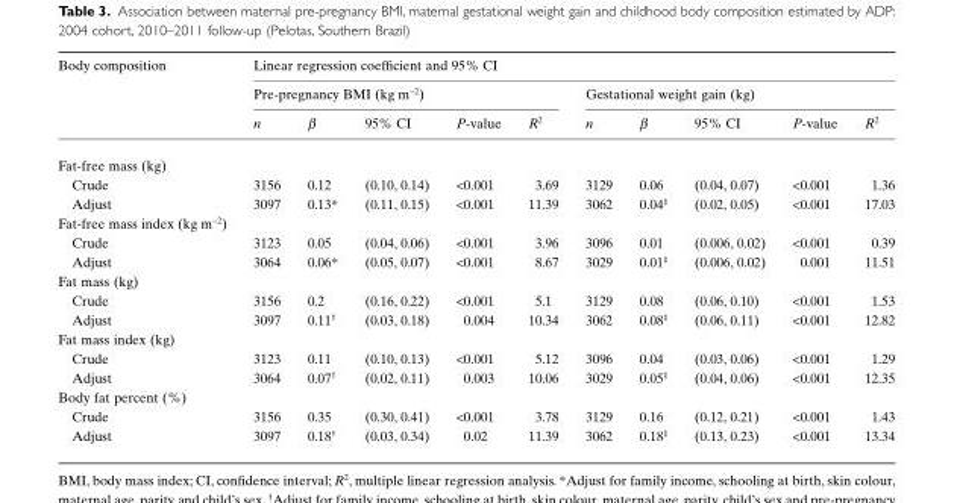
<table><thead><tr><td rowspan="3">Body composition</td><td colspan="10">Linear regression coefficient and 95% CI</td></tr><tr><td colspan="5">Pre-pregnancy BMI (kg m<sup>−2</sup>)</td><td colspan="5">Gestational weight gain (kg)</td></tr><tr><td>n</td><td>β</td><td>95% CI</td><td>P-value</td><td>R<sup>2</sup></td><td>n</td><td>β</td><td>95% CI</td><td>P-value</td><td>R<sup>2</sup></td></tr></thead><tbody><tr><td colspan="11">Fat-free mass (kg)</td></tr><tr><td>Crude</td><td>3156</td><td>0.12</td><td>(0.10, 0.14)</td><td>&lt;0.001</td><td>3.69</td><td>3129</td><td>0.06</td><td>(0.04, 0.07)</td><td>&lt;0.001</td><td>1.36</td></tr><tr><td>Adjust</td><td>3097</td><td>0.13*</td><td>(0.11, 0.15)</td><td>&lt;0.001</td><td>11.39</td><td>3062</td><td>0.04<sup>‡</sup></td><td>(0.02, 0.05)</td><td>&lt;0.001</td><td>17.03</td></tr><tr><td colspan="11">Fat-free mass index (kg m<sup>−2</sup>)</td></tr><tr><td>Crude</td><td>3123</td><td>0.05</td><td>(0.04, 0.06)</td><td>&lt;0.001</td><td>3.96</td><td>3096</td><td>0.01</td><td>(0.006, 0.02)</td><td>&lt;0.001</td><td>0.39</td></tr><tr><td>Adjust</td><td>3064</td><td>0.06*</td><td>(0.05, 0.07)</td><td>&lt;0.001</td><td>8.67</td><td>3029</td><td>0.01<sup>‡</sup></td><td>(0.006, 0.02)</td><td>0.001</td><td>11.51</td></tr><tr><td colspan="11">Fat mass (kg)</td></tr><tr><td>Crude</td><td>3156</td><td>0.2</td><td>(0.16, 0.22)</td><td>&lt;0.001</td><td>5.1</td><td>3129</td><td>0.08</td><td>(0.06, 0.10)</td><td>&lt;0.001</td><td>1.53</td></tr><tr><td>Adjust</td><td>3097</td><td>0.11<sup>†</sup></td><td>(0.03, 0.18)</td><td>0.004</td><td>10.34</td><td>3062</td><td>0.08<sup>‡</sup></td><td>(0.06, 0.11)</td><td>&lt;0.001</td><td>12.82</td></tr><tr><td colspan="11">Fat mass index (kg)</td></tr><tr><td>Crude</td><td>3123</td><td>0.11</td><td>(0.10, 0.13)</td><td>&lt;0.001</td><td>5.12</td><td>3096</td><td>0.04</td><td>(0.03, 0.06)</td><td>&lt;0.001</td><td>1.29</td></tr><tr><td>Adjust</td><td>3064</td><td>0.07<sup>†</sup></td><td>(0.02, 0.11)</td><td>0.003</td><td>10.06</td><td>3029</td><td>0.05<sup>‡</sup></td><td>(0.04, 0.06)</td><td>&lt;0.001</td><td>12.35</td></tr><tr><td colspan="11">Body fat percent (%)</td></tr><tr><td>Crude</td><td>3156</td><td>0.35</td><td>(0.30, 0.41)</td><td>&lt;0.001</td><td>3.78</td><td>3129</td><td>0.16</td><td>(0.12, 0.21)</td><td>&lt;0.001</td><td>1.43</td></tr><tr><td>Adjust</td><td>3097</td><td>0.18<sup>†</sup></td><td>(0.03, 0.34)</td><td>0.02</td><td>11.39</td><td>3062</td><td>0.18<sup>‡</sup></td><td>(0.13, 0.23)</td><td>&lt;0.001</td><td>13.34</td></tr></tbody></table>